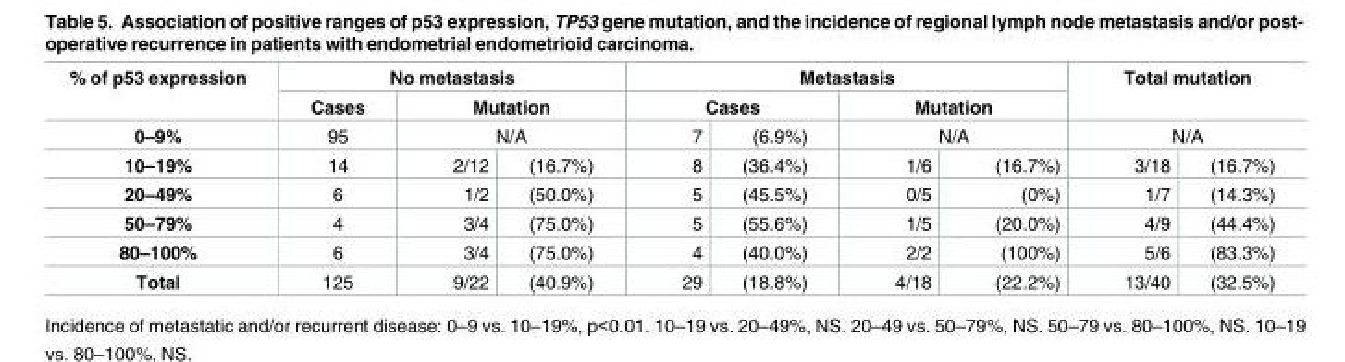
<table><thead><tr><td rowspan="4">% of p53 expression 0–9% 10–19%</td><td colspan="3">No metastasis</td><td colspan="4">Metastasis</td><td rowspan="3" colspan="2">Total mutation N/A</td></tr><tr><td rowspan="3">Cases 95 14</td><td rowspan="2" colspan="2">Mutation N/A</td><td colspan="2">Cases</td><td rowspan="2" colspan="2">Mutation N/A</td></tr><tr><td rowspan="2">7 8</td><td rowspan="2">(6.9%) (36.4%)</td></tr><tr><td>2/12</td><td>(16.7%)</td><td>1/6</td><td>(16.7%)</td><td>3/18</td><td>(16.7%)</td></tr></thead><tbody><tr><td>20–49%</td><td>6</td><td>1/2</td><td>(50.0%)</td><td>5</td><td>(45.5%)</td><td>0/5</td><td>(0%)</td><td>1/7</td><td>(14.3%)</td></tr><tr><td>50–79%</td><td>4</td><td>3/4</td><td>(75.0%)</td><td>5</td><td>(55.6%)</td><td>1/5</td><td>(20.0%)</td><td>4/9</td><td>(44.4%)</td></tr><tr><td>80–100%</td><td>6</td><td>3/4</td><td>(75.0%)</td><td>4</td><td>(40.0%)</td><td>2/2</td><td>(100%)</td><td>5/6</td><td>(83.3%)</td></tr><tr><td>Total</td><td>125</td><td>9/22</td><td>(40.9%)</td><td>29</td><td>(18.8%)</td><td>4/18</td><td>(22.2%)</td><td>13/40</td><td>(32.5%)</td></tr></tbody></table>